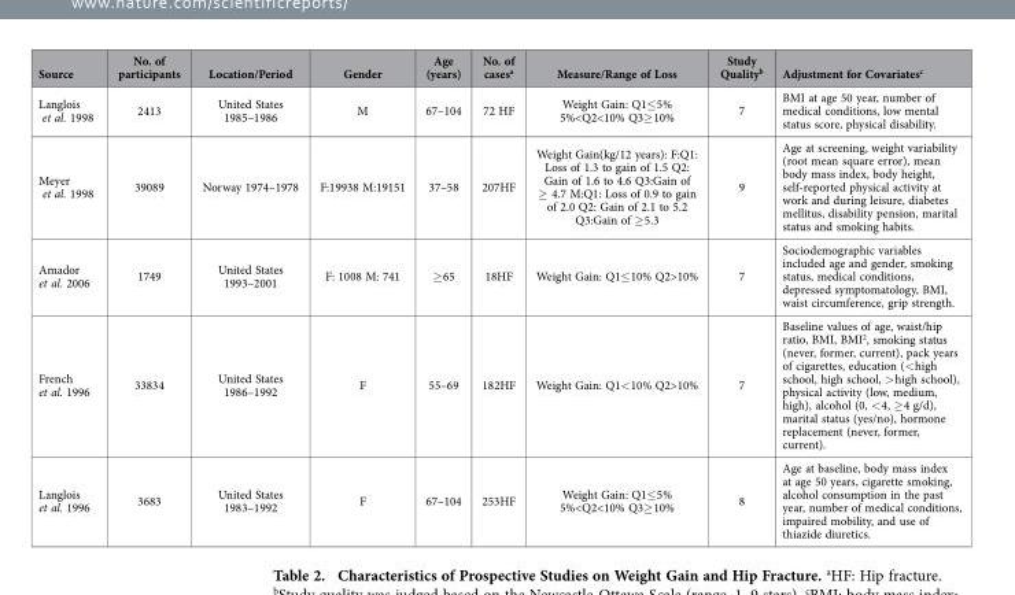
<table><thead><tr><td>Source</td><td>No. of participants</td><td>Location/Period</td><td>Gender</td><td>Age (years)</td><td>No. of cases<sup>a</sup></td><td>Measure/Range of Loss</td><td>Study Quality<sup>b</sup></td><td>Adjustment for Covariates<sup>c</sup></td></tr></thead><tbody><tr><td>Langlois et al. 1998</td><td>2413</td><td>United States 1985–1986</td><td>M</td><td>67–104</td><td>72 HF</td><td>Weight Gain: Q1≤ 5% 5%&lt;Q2&lt;10% Q3≥ 10%</td><td>7</td><td>BMI at age 50 year, number of medical conditions, low mental status score, physical disability.</td></tr><tr><td>Meyer et al. 1998</td><td>39089</td><td>Norway 1974–1978</td><td>F:19938 M:19151</td><td>37–58</td><td>207HF</td><td>Weight Gain(kg/12 years): F:Q1: Loss of 1.3 to gain of 1.5 Q2: Gain of 1.6 to 4.6 Q3:Gain of ≥ 4.7 M:Q1: Loss of 0.9 to gain of 2.0 Q2: Gain of 2.1 to 5.2 Q3:Gain of ≥ 5.3</td><td>9</td><td>Age at screening, weight variability (root mean square error), mean body mass index, body height, self-reported physical activity at work and during leisure, diabetes mellitus, disability pension, marital status and smoking habits.</td></tr><tr><td>Amador et al. 2006</td><td>1749</td><td>United States 1993–2001</td><td>F: 1008 M: 741</td><td>≥ 65</td><td>18HF</td><td>Weight Gain: Q1≤ 10% Q2&gt;10%</td><td>7</td><td>Sociodemographic variables included age and gender, smoking status, medical conditions, depressed symptomatology, BMI, waist circumference, grip strength.</td></tr><tr><td>French et al. 1996</td><td>33834</td><td>United States 1986–1992</td><td>F</td><td>55–69</td><td>182HF</td><td>Weight Gain: Q1&lt; 10% Q2&gt;10%</td><td>7</td><td>Baseline values of age, waist/hip ratio, BMI, BMI<sup>2</sup>, smoking status (never, former, current), pack years of cigarettes, education (&lt; high school, high school, &gt; high school), physical activity (low, medium, high), alcohol (0, &lt; 4, ≥ 4 g/d), marital status (yes/no), hormone replacement (never, former, current).</td></tr><tr><td>Langlois et al. 1996</td><td>3683</td><td>United States 1983–1992</td><td>F</td><td>67–104</td><td>253HF</td><td>Weight Gain: Q1≤ 5% 5%&lt;Q2&lt;10% Q3≥ 10%</td><td>8</td><td>Age at baseline, body mass index at age 50 years, cigarette smoking, alcohol consumption in the past year, number of medical conditions, impaired mobility, and use of thiazide diuretics.</td></tr></tbody></table>